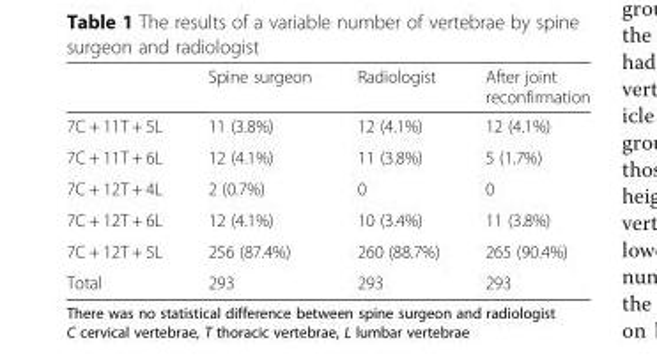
<table><thead><tr><td></td><td>Spine surgeon</td><td>Radiologist</td><td>After joint reconfirmation</td></tr></thead><tbody><tr><td>7C + 11T + 5L</td><td>11 (3.8%)</td><td>12 (4.1%)</td><td>12 (4.1%)</td></tr><tr><td>7C + 11T + 6L</td><td>12 (4.1%)</td><td>11 (3.8%)</td><td>5 (1.7%)</td></tr><tr><td>7C + 12T + 4L</td><td>2 (0.7%)</td><td>0</td><td>0</td></tr><tr><td>7C + 12T + 6L</td><td>12 (4.1%)</td><td>10 (3.4%)</td><td>11 (3.8%)</td></tr><tr><td>7C + 12T + 5L</td><td>256 (87.4%)</td><td>260 (88.7%)</td><td>265 (90.4%)</td></tr><tr><td>Total</td><td>293</td><td>293</td><td>293</td></tr></tbody></table>